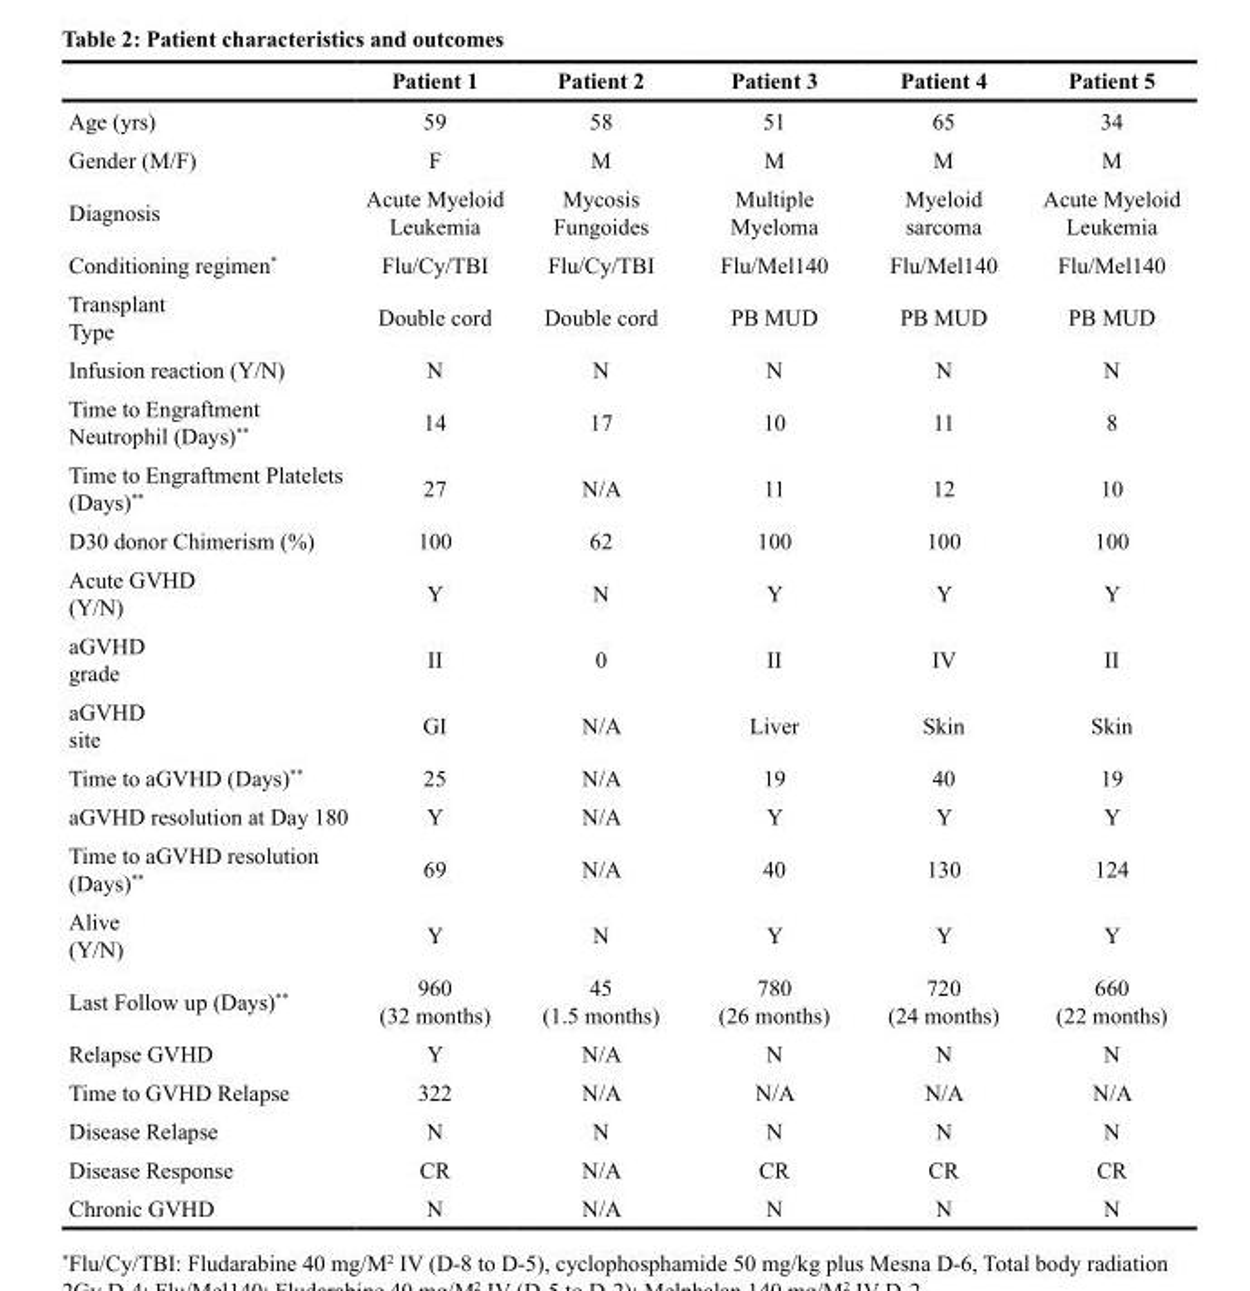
<table><thead><tr><td></td><td>Patient 1</td><td>Patient 2</td><td>Patient 3</td><td>Patient 4</td><td>Patient 5</td></tr></thead><tbody><tr><td>Age (yrs)</td><td>59</td><td>58</td><td>51</td><td>65</td><td>34</td></tr><tr><td>Gender (M/F)</td><td>F</td><td>M</td><td>M</td><td>M</td><td>M</td></tr><tr><td>Diagnosis</td><td>Acute Myeloid Leukemia</td><td>Mycosis Fungoides</td><td>Multiple Myeloma</td><td>Myeloid sarcoma</td><td>Acute Myeloid Leukemia</td></tr><tr><td>Conditioning regimen*</td><td>Flu/Cy/TBI</td><td>Flu/Cy/TBI</td><td>Flu/Mel140</td><td>Flu/Mel140</td><td>Flu/Mel140</td></tr><tr><td>Transplant Type</td><td>Double cord</td><td>Double cord</td><td>PB MUD</td><td>PB MUD</td><td>PB MUD</td></tr><tr><td>Infusion reaction (Y/N)</td><td>N</td><td>N</td><td>N</td><td>N</td><td>N</td></tr><tr><td>Time to Engraftment Neutrophil (Days)**</td><td>14</td><td>17</td><td>10</td><td>11</td><td>8</td></tr><tr><td>Time to Engraftment Platelets (Days)**</td><td>27</td><td>N/A</td><td>11</td><td>12</td><td>10</td></tr><tr><td>D30 donor Chimerism (%)</td><td>100</td><td>62</td><td>100</td><td>100</td><td>100</td></tr><tr><td>Acute GVHD (Y/N)</td><td>Y</td><td>N</td><td>Y</td><td>Y</td><td>Y</td></tr><tr><td>aGVHD grade</td><td>II</td><td>0</td><td>II</td><td>IV</td><td>II</td></tr><tr><td>aGVHD site</td><td>GI</td><td>N/A</td><td>Liver</td><td>Skin</td><td>Skin</td></tr><tr><td>Time to aGVHD (Days)**</td><td>25</td><td>N/A</td><td>19</td><td>40</td><td>19</td></tr><tr><td>aGVHD resolution at Day 180</td><td>Y</td><td>N/A</td><td>Y</td><td>Y</td><td>Y</td></tr><tr><td>Time to aGVHD resolution (Days)**</td><td>69</td><td>N/A</td><td>40</td><td>130</td><td>124</td></tr><tr><td>Alive (Y/N)</td><td>Y</td><td>N</td><td>Y</td><td>Y</td><td>Y</td></tr><tr><td>Last Follow up (Days)**</td><td>960 (32 months)</td><td>45 (1.5 months)</td><td>780 (26 months)</td><td>720 (24 months)</td><td>660 (22 months)</td></tr><tr><td>Relapse GVHD</td><td>Y</td><td>N/A</td><td>N</td><td>N</td><td>N</td></tr><tr><td>Time to GVHD Relapse</td><td>322</td><td>N/A</td><td>N/A</td><td>N/A</td><td>N/A</td></tr><tr><td>Disease Relapse</td><td>N</td><td>N</td><td>N</td><td>N</td><td>N</td></tr><tr><td>Disease Response</td><td>CR</td><td>N/A</td><td>CR</td><td>CR</td><td>CR</td></tr><tr><td>Chronic GVHD</td><td>N</td><td>N/A</td><td>N</td><td>N</td><td>N</td></tr></tbody></table>